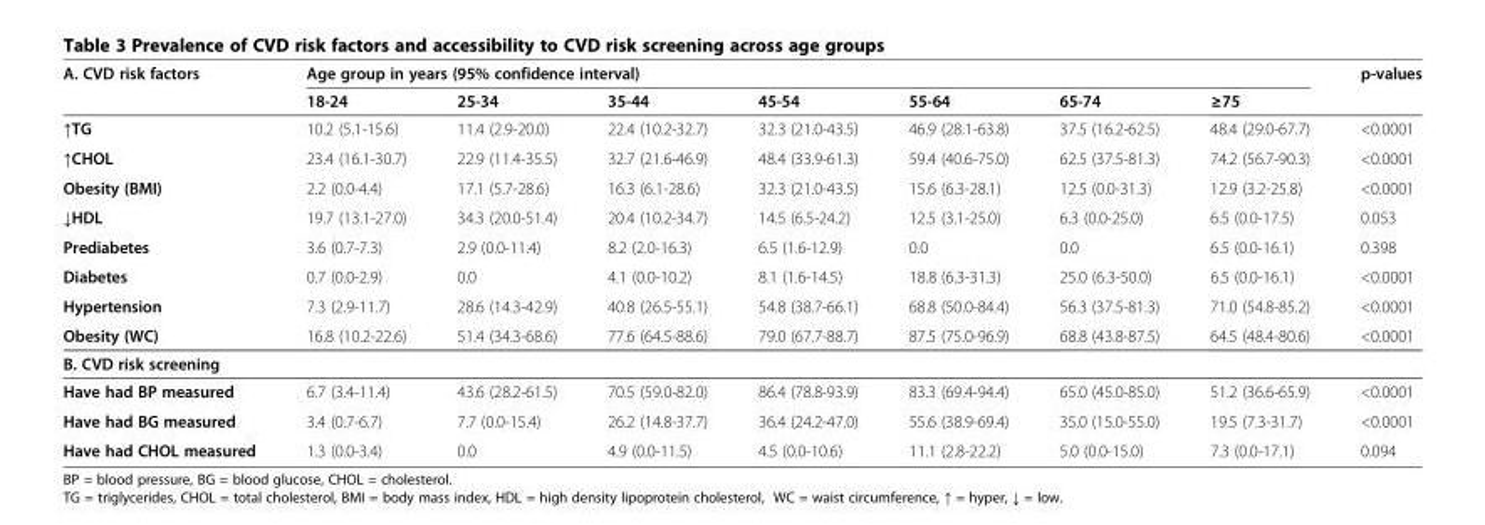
<table><thead><tr><td rowspan="2">A. CVD risk factors</td><td colspan="7">Age group in years (95% confidence interval)</td><td rowspan="2">p-values</td></tr><tr><td>18-24</td><td>25-34</td><td>35-44</td><td>45-54</td><td>55-64</td><td>65-74</td><td>≥75</td></tr></thead><tbody><tr><td>↑TG</td><td>10.2 (5.1-15.6)</td><td>11.4 (2.9-20.0)</td><td>22.4 (10.2-32.7)</td><td>32.3 (21.0-43.5)</td><td>46.9 (28.1-63.8)</td><td>37.5 (16.2-62.5)</td><td>48.4 (29.0-67.7)</td><td>&lt;0.0001</td></tr><tr><td>↑CHOL</td><td>23.4 (16.1-30.7)</td><td>22.9 (11.4-35.5)</td><td>32.7 (21.6-46.9)</td><td>48.4 (33.9-61.3)</td><td>59.4 (40.6-75.0)</td><td>62.5 (37.5-81.3)</td><td>74.2 (56.7-90.3)</td><td>&lt;0.0001</td></tr><tr><td>Obesity (BMI)</td><td>2.2 (0.0-4.4)</td><td>17.1 (5.7-28.6)</td><td>16.3 (6.1-28.6)</td><td>32.3 (21.0-43.5)</td><td>15.6 (6.3-28.1)</td><td>12.5 (0.0-31.3)</td><td>12.9 (3.2-25.8)</td><td>&lt;0.0001</td></tr><tr><td>↓HDL</td><td>19.7 (13.1-27.0)</td><td>34.3 (20.0-51.4)</td><td>20.4 (10.2-34.7)</td><td>14.5 (6.5-24.2)</td><td>12.5 (3.1-25.0)</td><td>6.3 (0.0-25.0)</td><td>6.5 (0.0-17.5)</td><td>0.053</td></tr><tr><td>Prediabetes</td><td>3.6 (0.7-7.3)</td><td>2.9 (0.0-11.4)</td><td>8.2 (2.0-16.3)</td><td>6.5 (1.6-12.9)</td><td>0.0</td><td>0.0</td><td>6.5 (0.0-16.1)</td><td>0.398</td></tr><tr><td>Diabetes</td><td>0.7 (0.0-2.9)</td><td>0.0</td><td>4.1 (0.0-10.2)</td><td>8.1 (1.6-14.5)</td><td>18.8 (6.3-31.3)</td><td>25.0 (6.3-50.0)</td><td>6.5 (0.0-16.1)</td><td>&lt;0.0001</td></tr><tr><td>Hypertension</td><td>7.3 (2.9-11.7)</td><td>28.6 (14.3-42.9)</td><td>40.8 (26.5-55.1)</td><td>54.8 (38.7-66.1)</td><td>68.8 (50.0-84.4)</td><td>56.3 (37.5-81.3)</td><td>71.0 (54.8-85.2)</td><td>&lt;0.0001</td></tr><tr><td>Obesity (WC)</td><td>16.8 (10.2-22.6)</td><td>51.4 (34.3-68.6)</td><td>77.6 (64.5-88.6)</td><td>79.0 (67.7-88.7)</td><td>87.5 (75.0-96.9)</td><td>68.8 (43.8-87.5)</td><td>64.5 (48.4-80.6)</td><td>&lt;0.0001</td></tr><tr><td colspan="9">B. CVD risk screening</td></tr><tr><td>Have had BP measured</td><td>6.7 (3.4-11.4)</td><td>43.6 (28.2-61.5)</td><td>70.5 (59.0-82.0)</td><td>86.4 (78.8-93.9)</td><td>83.3 (69.4-94.4)</td><td>65.0 (45.0-85.0)</td><td>51.2 (36.6-65.9)</td><td>&lt;0.0001</td></tr><tr><td>Have had BG measured</td><td>3.4 (0.7-6.7)</td><td>7.7 (0.0-15.4)</td><td>26.2 (14.8-37.7)</td><td>36.4 (24.2-47.0)</td><td>55.6 (38.9-69.4)</td><td>35.0 (15.0-55.0)</td><td>19.5 (7.3-31.7)</td><td>&lt;0.0001</td></tr><tr><td>Have had CHOL measured</td><td>1.3 (0.0-3.4)</td><td>0.0</td><td>4.9 (0.0-11.5)</td><td>4.5 (0.0-10.6)</td><td>11.1 (2.8-22.2)</td><td>5.0 (0.0-15.0)</td><td>7.3 (0.0-17.1)</td><td>0.094</td></tr></tbody></table>